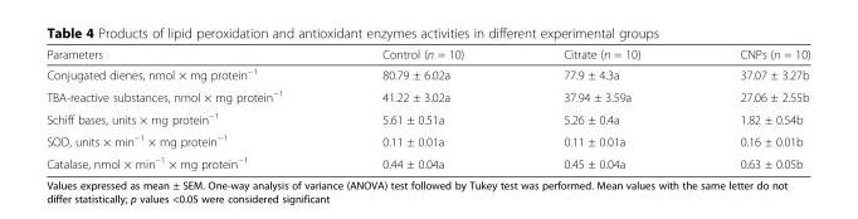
<table><thead><tr><td>Parameters</td><td>Control (n = 10)</td><td>Citrate (n = 10)</td><td>CNPs (n = 10)</td></tr></thead><tbody><tr><td>Conjugated dienes, nmol × mg protein<sup>−1</sup></td><td>80.79 ± 6.02a</td><td>77.9 ± 4.3a</td><td>37.07 ± 3.27b</td></tr><tr><td>TBA-reactive substances, nmol × mg protein<sup>−1</sup></td><td>41.22 ± 3.02a</td><td>37.94 ± 3.59a</td><td>27.06 ± 2.55b</td></tr><tr><td>Schiff bases, units × mg protein<sup>−1</sup></td><td>5.61 ± 0.51a</td><td>5.26 ± 0.4a</td><td>1.82 ± 0.54b</td></tr><tr><td>SOD, units × min<sup>−1</sup> × mg protein<sup>−1</sup></td><td>0.11 ± 0.01a</td><td>0.11 ± 0.01a</td><td>0.16 ± 0.01b</td></tr><tr><td>Catalase, nmol × min<sup>−1</sup> × mg protein<sup>−1</sup></td><td>0.44 ± 0.04a</td><td>0.45 ± 0.04a</td><td>0.63 ± 0.05b</td></tr></tbody></table>